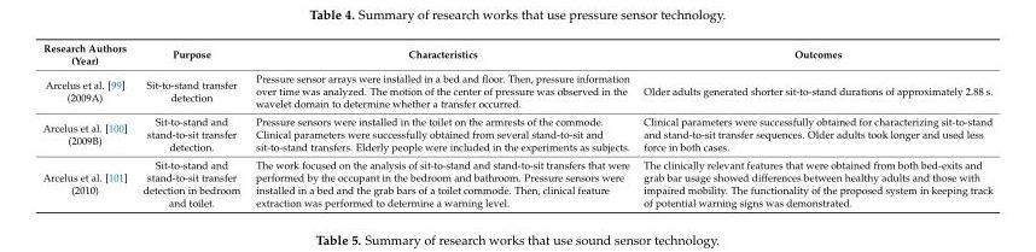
<table><thead><tr><td>Research Authors (Year)</td><td>Purpose</td><td>Characteristics</td><td>Outcomes</td></tr></thead><tbody><tr><td>Arcelus et al. [99] (2009A)</td><td>Sit-to-stand transfer detection</td><td>Pressure sensor arrays were installed in a bed and floor. Then, pressure information over time was analyzed. The motion of the center of pressure was observed in the wavelet domain to determine whether a transfer occurred.</td><td>Older adults generated shorter sit-to-stand durations of approximately 2.88 s.</td></tr><tr><td>Arcelus et al. [100] (2009B)</td><td>Sit-to-stand and stand-to-sit transfer detection.</td><td>Pressure sensors were installed in the toilet on the armrests of the commode. Clinical parameters were successfully obtained from several stand-to-sit and sit-to-stand transfers. Elderly people were included in the experiments as subjects.</td><td>Clinical parameters were successfully obtained for characterizing sit-to-stand and stand-to-sit transfer sequences. Older adults took longer and used less force in both cases.</td></tr><tr><td>Arcelus et al. [101] (2010)</td><td>Sit-to-stand and stand-to-sit transfer detection in bedroom and toilet.</td><td>The work focused on the analysis of sit-to-stand and stand-to-sit transfers that were performed by the occupant in the bedroom and bathroom. Pressure sensors were installed in a bed and the grab bars of a toilet commode. Then, clinical feature extraction was performed to determine a warning level.</td><td>The clinically relevant features that were obtained from both bed-exits and grab bar usage showed differences between healthy adults and those with impaired mobility. The functionality of the proposed system in keeping track of potential warning signs was demonstrated.</td></tr></tbody></table>